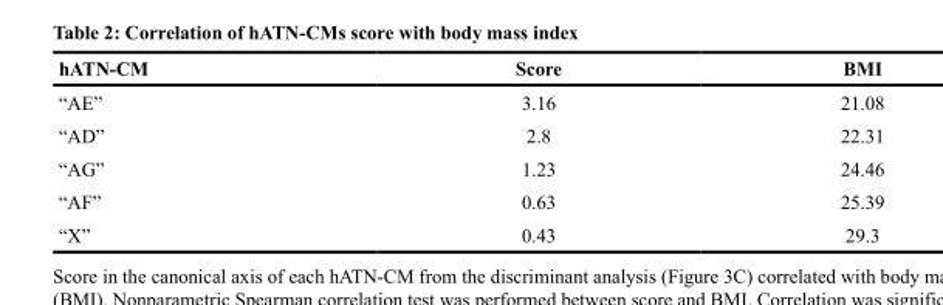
<table><thead><tr><td>hATN-CM</td><td>Score</td><td>BMI</td></tr></thead><tbody><tr><td>“AE”</td><td>3.16</td><td>21.08</td></tr><tr><td>“AD”</td><td>2.8</td><td>22.31</td></tr><tr><td>“AG”</td><td>1.23</td><td>24.46</td></tr><tr><td>“AF”</td><td>0.63</td><td>25.39</td></tr><tr><td>“X”</td><td>0.43</td><td>29.3</td></tr></tbody></table>